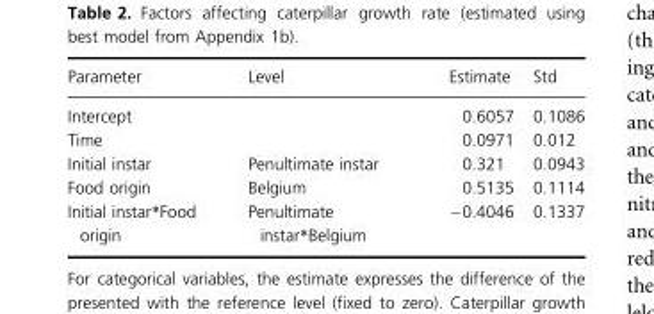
<table><thead><tr><td>Parameter</td><td>Level</td><td>Estimate</td><td>Std</td></tr></thead><tbody><tr><td>Intercept</td><td></td><td>0.6057</td><td>0.1086</td></tr><tr><td>Time</td><td></td><td>0.0971</td><td>0.012</td></tr><tr><td>Initial instar</td><td>Penultimate instar</td><td>0.321</td><td>0.0943</td></tr><tr><td>Food origin</td><td>Belgium</td><td>0.5135</td><td>0.1114</td></tr><tr><td>Initial instar*Food origin</td><td>Penultimate instar*Belgium</td><td>−0.4046</td><td>0.1337</td></tr></tbody></table>